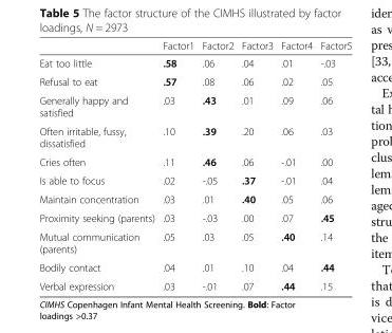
<table><thead><tr><td></td><td>Factor1</td><td>Factor2</td><td>Factor3</td><td>Factor4</td><td>Factor5</td></tr></thead><tbody><tr><td>Eat too little</td><td>.58</td><td>.06</td><td>.04</td><td>.01</td><td>-.03</td></tr><tr><td>Refusal to eat</td><td>.57</td><td>.08</td><td>.06</td><td>.02</td><td>.05</td></tr><tr><td>Generally happy and satisfied</td><td>.03</td><td>.43</td><td>.01</td><td>.09</td><td>.06</td></tr><tr><td>Often irritable, fussy, dissatisfied</td><td>.10</td><td>.39</td><td>.20</td><td>.06</td><td>.03</td></tr><tr><td>Cries often</td><td>.11</td><td>.46</td><td>.06</td><td>-.01</td><td>.00</td></tr><tr><td>Is able to focus</td><td>.02</td><td>-.05</td><td>.37</td><td>-.01</td><td>.04</td></tr><tr><td>Maintain concentration</td><td>.03</td><td>.01</td><td>.40</td><td>.05</td><td>.06</td></tr><tr><td>Proximity seeking (parents)</td><td>.03</td><td>-.03</td><td>.00</td><td>.07</td><td>.45</td></tr><tr><td>Mutual communication (parents)</td><td>.05</td><td>.03</td><td>.05</td><td>.40</td><td>.14</td></tr><tr><td>Bodily contact</td><td>.04</td><td>.01</td><td>.10</td><td>.04</td><td>.44</td></tr><tr><td>Verbal expression</td><td>.03</td><td>-.01</td><td>.07</td><td>.44</td><td>.15</td></tr></tbody></table>